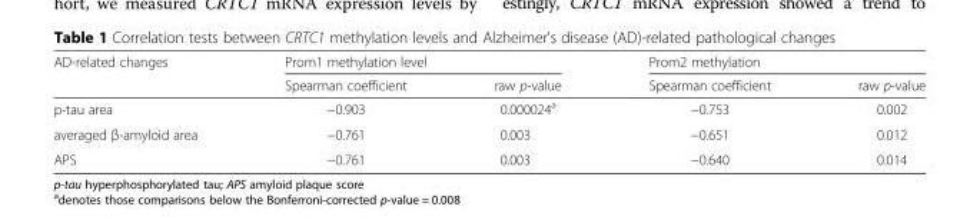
<table><thead><tr><td rowspan="2">AD-related changes</td><td colspan="2">Prom1 methylation level</td><td colspan="2">Prom2 methylation</td></tr><tr><td>Spearman coefficient</td><td>raw p-value</td><td>Spearman coefficient</td><td>raw p-value</td></tr></thead><tbody><tr><td>p-tau area</td><td>−0.903</td><td>0.000024<sup>a</sup></td><td>−0.753</td><td>0.002</td></tr><tr><td>averaged β-amyloid area</td><td>−0.761</td><td>0.003</td><td>−0.651</td><td>0.012</td></tr><tr><td>APS</td><td>−0.761</td><td>0.003</td><td>−0.640</td><td>0.014</td></tr></tbody></table>